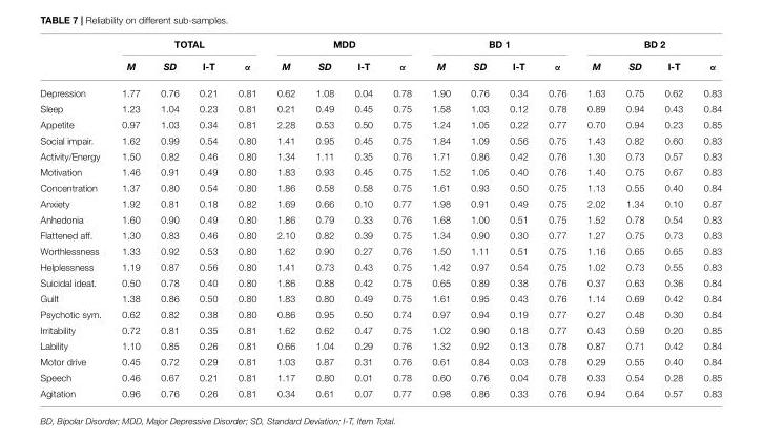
<table><thead><tr><td rowspan="2"></td><td colspan="4">TOTAL</td><td colspan="4">MDD</td><td colspan="4">BD 1</td><td colspan="4">BD 2</td></tr><tr><td>M</td><td>SD</td><td>I-T</td><td>α</td><td>M</td><td>SD</td><td>I-T</td><td>α</td><td>M</td><td>SD</td><td>I-T</td><td>α</td><td>M</td><td>SD</td><td>I-T</td><td>α</td></tr></thead><tbody><tr><td>Depression</td><td>1.77</td><td>0.76</td><td>0.21</td><td>0.81</td><td>0.62</td><td>1.08</td><td>0.04</td><td>0.78</td><td>1.90</td><td>0.76</td><td>0.34</td><td>0.76</td><td>1.63</td><td>0.75</td><td>0.62</td><td>0.83</td></tr><tr><td>Sleep</td><td>1.23</td><td>1.04</td><td>0.23</td><td>0.81</td><td>0.21</td><td>0.49</td><td>0.45</td><td>0.75</td><td>1.58</td><td>1.03</td><td>0.12</td><td>0.78</td><td>0.89</td><td>0.94</td><td>0.43</td><td>0.84</td></tr><tr><td>Appetite</td><td>0.97</td><td>1.03</td><td>0.34</td><td>0.81</td><td>2.28</td><td>0.53</td><td>0.50</td><td>0.75</td><td>1.24</td><td>1.05</td><td>0.22</td><td>0.77</td><td>0.70</td><td>0.94</td><td>0.23</td><td>0.85</td></tr><tr><td>Social impair.</td><td>1.62</td><td>0.99</td><td>0.54</td><td>0.80</td><td>1.41</td><td>0.95</td><td>0.45</td><td>0.75</td><td>1.84</td><td>1.09</td><td>0.56</td><td>0.75</td><td>1.43</td><td>0.82</td><td>0.60</td><td>0.83</td></tr><tr><td>Activity/Energy</td><td>1.50</td><td>0.82</td><td>0.46</td><td>0.80</td><td>1.34</td><td>1.11</td><td>0.35</td><td>0.76</td><td>1.71</td><td>0.86</td><td>0.42</td><td>0.76</td><td>1.30</td><td>0.73</td><td>0.57</td><td>0.83</td></tr><tr><td>Motivation</td><td>1.46</td><td>0.91</td><td>0.49</td><td>0.80</td><td>1.83</td><td>0.93</td><td>0.45</td><td>0.75</td><td>1.52</td><td>1.05</td><td>0.40</td><td>0.76</td><td>1.40</td><td>0.75</td><td>0.67</td><td>0.83</td></tr><tr><td>Concentration</td><td>1.37</td><td>0.80</td><td>0.54</td><td>0.80</td><td>1.86</td><td>0.58</td><td>0.58</td><td>0.75</td><td>1.61</td><td>0.93</td><td>0.50</td><td>0.75</td><td>1.13</td><td>0.55</td><td>0.40</td><td>0.84</td></tr><tr><td>Anxiety</td><td>1.92</td><td>0.81</td><td>0.18</td><td>0.82</td><td>1.69</td><td>0.66</td><td>0.10</td><td>0.77</td><td>1.98</td><td>0.91</td><td>0.49</td><td>0.75</td><td>2.02</td><td>1.34</td><td>0.10</td><td>0.87</td></tr><tr><td>Anhedonia</td><td>1.60</td><td>0.90</td><td>0.49</td><td>0.80</td><td>1.86</td><td>0.79</td><td>0.33</td><td>0.76</td><td>1.68</td><td>1.00</td><td>0.51</td><td>0.75</td><td>1.52</td><td>0.78</td><td>0.54</td><td>0.83</td></tr><tr><td>Flattened aff.</td><td>1.30</td><td>0.83</td><td>0.46</td><td>0.80</td><td>2.10</td><td>0.82</td><td>0.39</td><td>0.75</td><td>1.34</td><td>0.90</td><td>0.30</td><td>0.77</td><td>1.27</td><td>0.75</td><td>0.73</td><td>0.83</td></tr><tr><td>Worthlessness</td><td>1.33</td><td>0.92</td><td>0.53</td><td>0.80</td><td>1.62</td><td>0.90</td><td>0.27</td><td>0.76</td><td>1.50</td><td>1.11</td><td>0.51</td><td>0.75</td><td>1.16</td><td>0.65</td><td>0.65</td><td>0.83</td></tr><tr><td>Helplessness</td><td>1.19</td><td>0.87</td><td>0.56</td><td>0.80</td><td>1.41</td><td>0.73</td><td>0.43</td><td>0.75</td><td>1.42</td><td>0.97</td><td>0.54</td><td>0.75</td><td>1.02</td><td>0.73</td><td>0.55</td><td>0.83</td></tr><tr><td>Suicidal ideat.</td><td>0.50</td><td>0.78</td><td>0.40</td><td>0.80</td><td>1.86</td><td>0.88</td><td>0.42</td><td>0.75</td><td>0.65</td><td>0.89</td><td>0.38</td><td>0.76</td><td>0.37</td><td>0.63</td><td>0.36</td><td>0.84</td></tr><tr><td>Guilt</td><td>1.38</td><td>0.86</td><td>0.50</td><td>0.80</td><td>1.83</td><td>0.80</td><td>0.49</td><td>0.75</td><td>1.61</td><td>0.95</td><td>0.43</td><td>0.76</td><td>1.14</td><td>0.69</td><td>0.42</td><td>0.84</td></tr><tr><td>Psychotic sym.</td><td>0.62</td><td>0.82</td><td>0.38</td><td>0.80</td><td>0.86</td><td>0.95</td><td>0.50</td><td>0.74</td><td>0.97</td><td>0.94</td><td>0.19</td><td>0.77</td><td>0.27</td><td>0.48</td><td>0.30</td><td>0.84</td></tr><tr><td>Irritability</td><td>0.72</td><td>0.81</td><td>0.35</td><td>0.81</td><td>1.62</td><td>0.62</td><td>0.47</td><td>0.75</td><td>1.02</td><td>0.90</td><td>0.18</td><td>0.77</td><td>0.43</td><td>0.59</td><td>0.20</td><td>0.85</td></tr><tr><td>Lability</td><td>1.10</td><td>0.85</td><td>0.26</td><td>0.81</td><td>0.66</td><td>1.04</td><td>0.29</td><td>0.76</td><td>1.32</td><td>0.92</td><td>0.13</td><td>0.78</td><td>0.87</td><td>0.71</td><td>0.42</td><td>0.84</td></tr><tr><td>Motor drive</td><td>0.45</td><td>0.72</td><td>0.29</td><td>0.81</td><td>1.03</td><td>0.87</td><td>0.31</td><td>0.76</td><td>0.61</td><td>0.84</td><td>0.03</td><td>0.78</td><td>0.29</td><td>0.55</td><td>0.40</td><td>0.84</td></tr><tr><td>Speech</td><td>0.46</td><td>0.67</td><td>0.21</td><td>0.81</td><td>1.17</td><td>0.80</td><td>0.01</td><td>0.78</td><td>0.60</td><td>0.76</td><td>0.04</td><td>0.78</td><td>0.33</td><td>0.54</td><td>0.28</td><td>0.85</td></tr><tr><td>Agitation</td><td>0.96</td><td>0.76</td><td>0.26</td><td>0.81</td><td>0.34</td><td>0.61</td><td>0.07</td><td>0.77</td><td>0.98</td><td>0.86</td><td>0.33</td><td>0.76</td><td>0.94</td><td>0.64</td><td>0.57</td><td>0.83</td></tr></tbody></table>